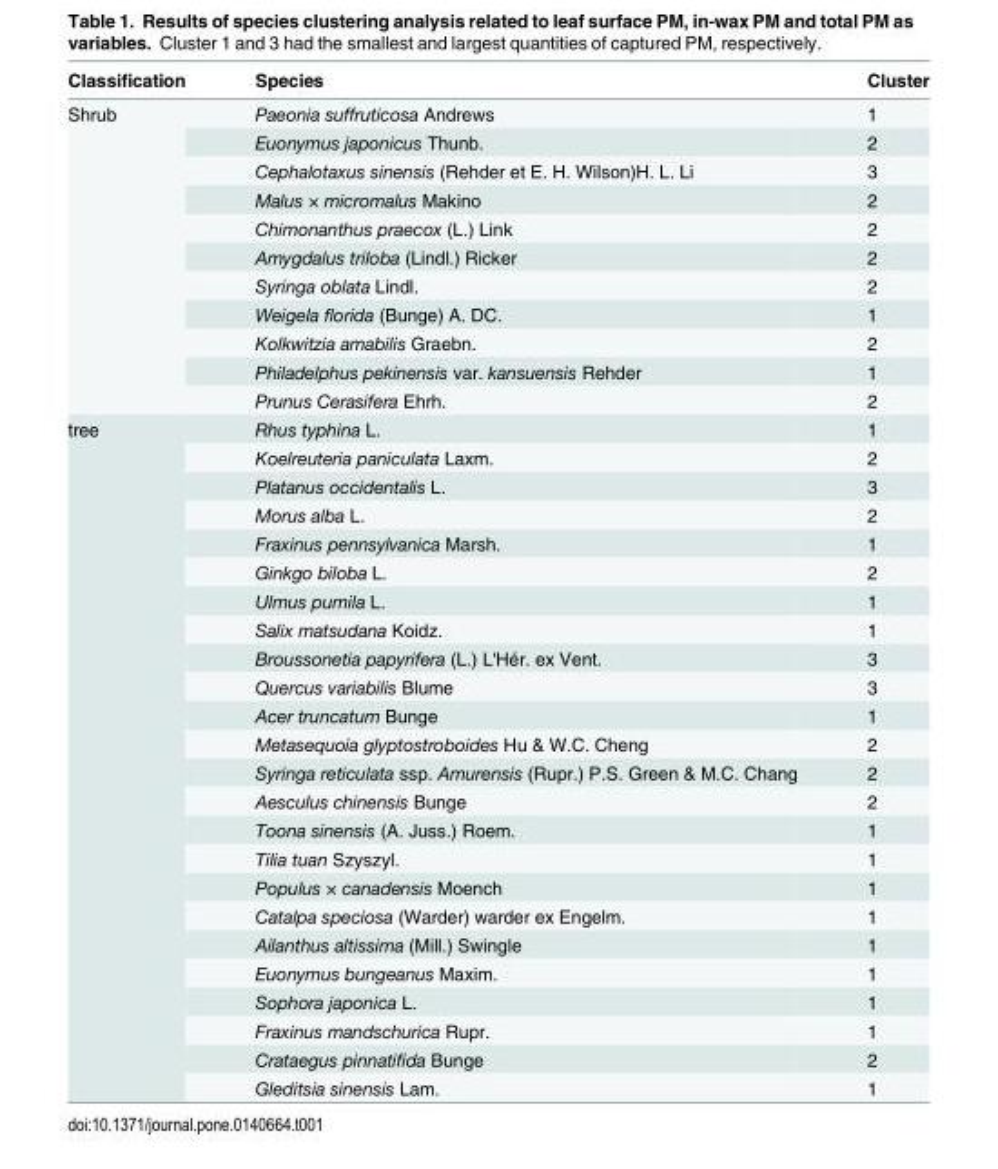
<table><thead><tr><td>Classification</td><td>Species</td><td>Cluster</td></tr></thead><tbody><tr><td rowspan="11">Shrub</td><td>Paeonia suffruticosa Andrews</td><td>1</td></tr><tr><td>Euonymus japonicus Thunb.</td><td>2</td></tr><tr><td>Cephalotaxus sinensis (Rehder et E. H. Wilson)H. L. Li</td><td>3</td></tr><tr><td>Malus × micromalus Makino</td><td>2</td></tr><tr><td>Chimonanthus praecox (L.) Link</td><td>2</td></tr><tr><td>Amygdalus triloba (Lindl.) Ricker</td><td>2</td></tr><tr><td>Syringa oblata Lindl.</td><td>2</td></tr><tr><td>Weigela florida (Bunge) A. DC.</td><td>1</td></tr><tr><td>Kolkwitzia amabilis Graebn.</td><td>2</td></tr><tr><td>Philadelphus pekinensis var. kansuensis Rehder</td><td>1</td></tr><tr><td>Prunus Cerasifera Ehrh.</td><td>2</td></tr><tr><td rowspan="24">tree</td><td>Rhus typhina L.</td><td>1</td></tr><tr><td>Koelreuteria paniculata Laxm.</td><td>2</td></tr><tr><td>Platanus occidentalis L.</td><td>3</td></tr><tr><td>Morus alba L.</td><td>2</td></tr><tr><td>Fraxinus pennsylvanica Marsh.</td><td>1</td></tr><tr><td>Ginkgo biloba L.</td><td>2</td></tr><tr><td>Ulmus pumila L.</td><td>1</td></tr><tr><td>Salix matsudana Koidz.</td><td>1</td></tr><tr><td>Broussonetia papyrifera (L.) L&#x27;Hér. ex Vent.</td><td>3</td></tr><tr><td>Quercus variabilis Blume</td><td>3</td></tr><tr><td>Acer truncatum Bunge</td><td>1</td></tr><tr><td>Metasequoia glyptostroboides Hu &amp; W.C. Cheng</td><td>2</td></tr><tr><td>Syringa reticulata ssp. Amurensis (Rupr.) P.S. Green &amp; M.C. Chang</td><td>2</td></tr><tr><td>Aesculus chinensis Bunge</td><td>2</td></tr><tr><td>Toona sinensis (A. Juss.) Roem.</td><td>1</td></tr><tr><td>Tilia tuan Szyszyl.</td><td>1</td></tr><tr><td>Populus × canadensis Moench</td><td>1</td></tr><tr><td>Catalpa speciosa (Warder) warder ex Engelm.</td><td>1</td></tr><tr><td>Ailanthus altissima (Mill.) Swingle</td><td>1</td></tr><tr><td>Euonymus bungeanus Maxim.</td><td>1</td></tr><tr><td>Sophora japonica L.</td><td>1</td></tr><tr><td>Fraxinus mandschurica Rupr.</td><td>1</td></tr><tr><td>Crataegus pinnatifida Bunge</td><td>2</td></tr><tr><td>Gleditsia sinensis Lam.</td><td>1</td></tr></tbody></table>